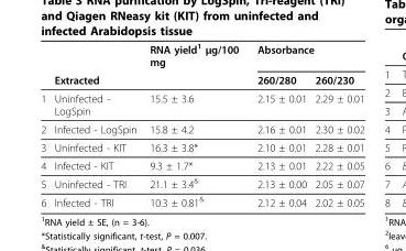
<table><thead><tr><td rowspan="2"></td><td rowspan="2">Extracted</td><td rowspan="2">RNA yield<sup>1</sup> μg/100 mg</td><td colspan="2">Absorbance</td></tr><tr><td>260/280</td><td>260/230</td></tr></thead><tbody><tr><td>1</td><td>Uninfected - LogSpin</td><td>15.5 ± 3.6</td><td>2.15 ± 0.01</td><td>2.29 ± 0.01</td></tr><tr><td>2</td><td>Infected - LogSpin</td><td>15.8 ± 4.2</td><td>2.16 ± 0.01</td><td>2.30 ± 0.02</td></tr><tr><td>3</td><td>Uninfected - KIT</td><td>16.3 ± 3.8*</td><td>2.10 ± 0.01</td><td>2.28 ± 0.01</td></tr><tr><td>4</td><td>Infected - KIT</td><td>9.3 ± 1.7*</td><td>2.13 ± 0.01</td><td>2.22 ± 0.05</td></tr><tr><td>5</td><td>Uninfected - TRI</td><td>21.1 ± 3.4<sup>&amp;</sup></td><td>2.13 ± 0.00</td><td>2.05 ± 0.07</td></tr><tr><td>6</td><td>Infected - TRI</td><td>10.3 ± 0.81<sup>&amp;</sup></td><td>2.12 ± 0.04</td><td>2.02 ± 0.05</td></tr></tbody></table>